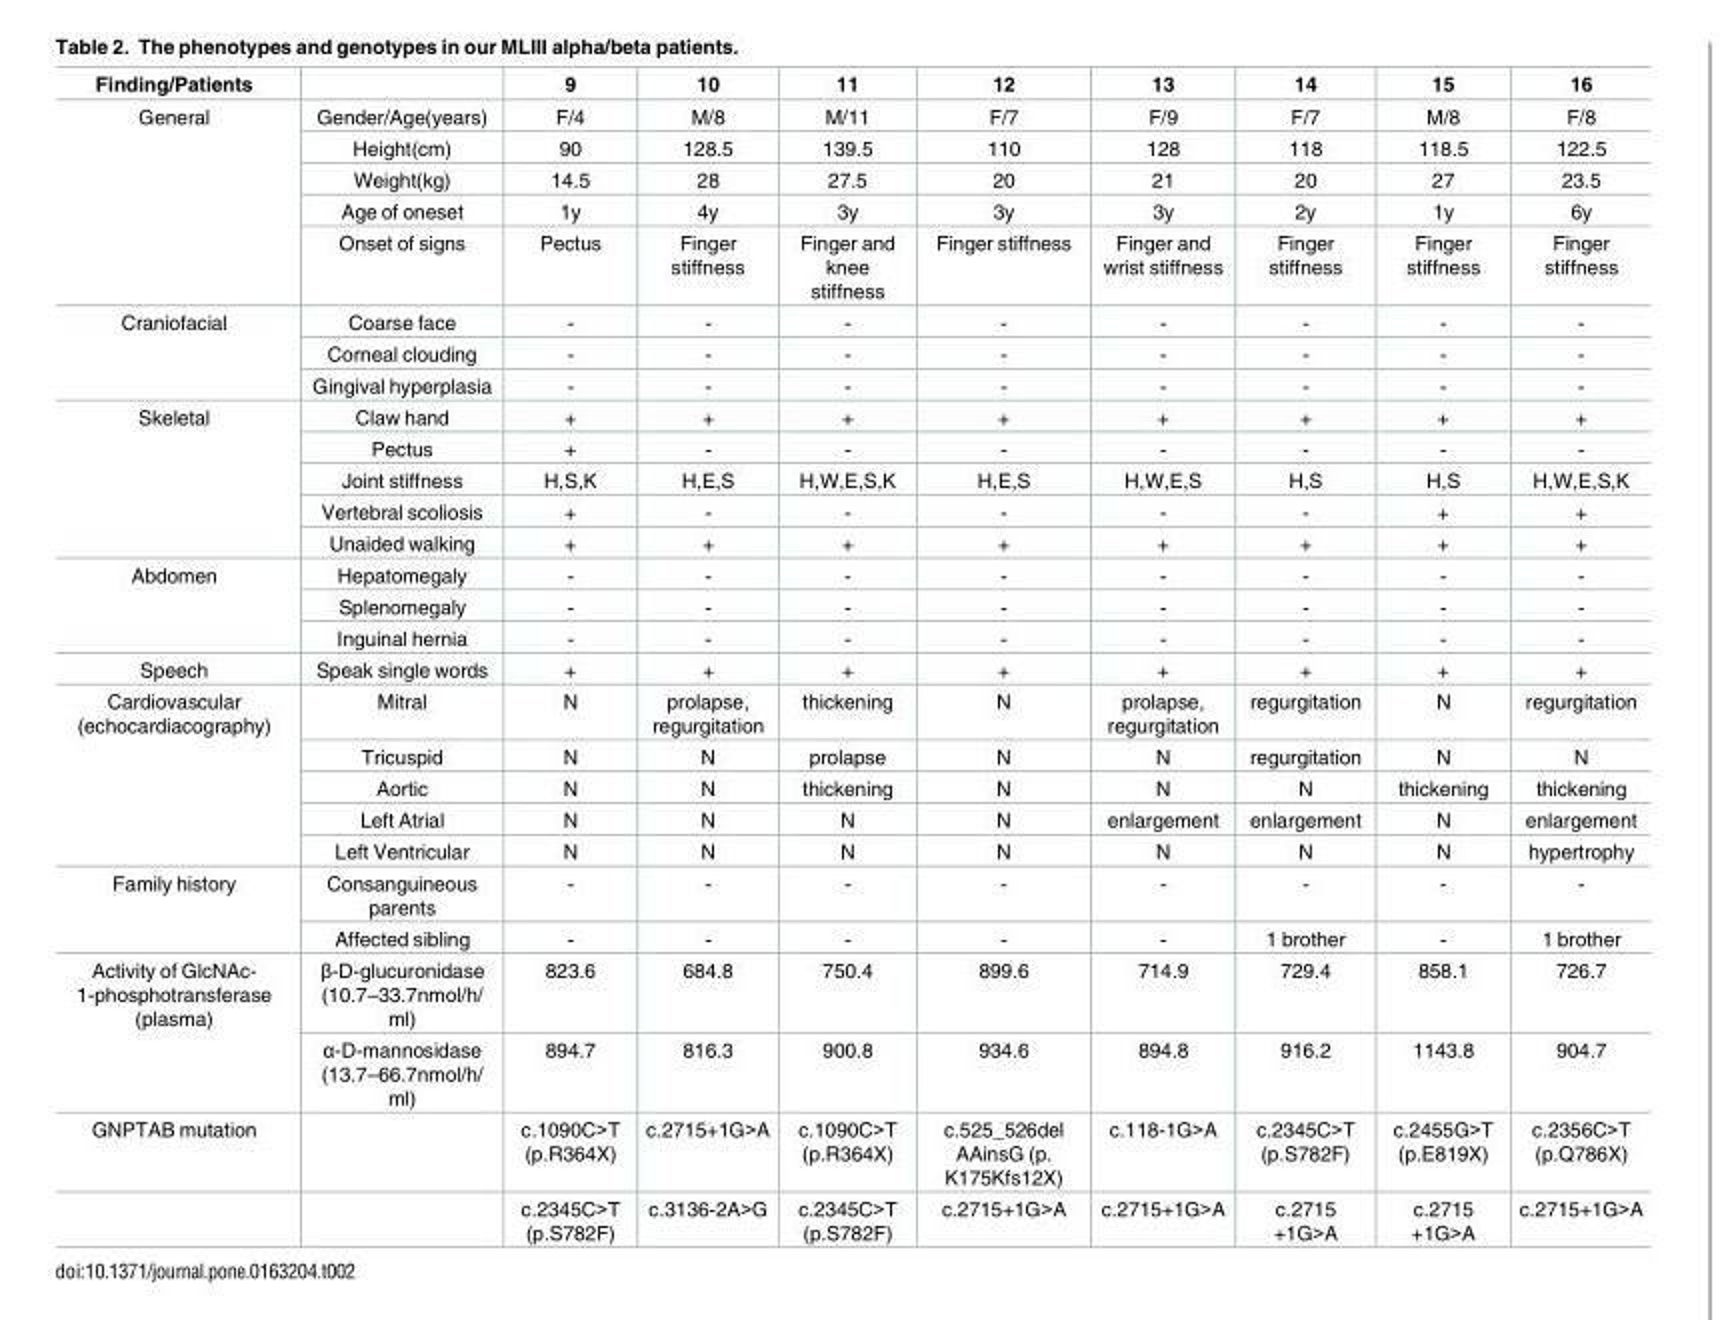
<table><thead><tr><td>Finding/Patients</td><td></td><td>9</td><td>10</td><td>11</td><td>12</td><td>13</td><td>14</td><td>15</td><td>16</td></tr></thead><tbody><tr><td rowspan="5">General</td><td>Gender/Age(years)</td><td>F/4</td><td>M/8</td><td>M/11</td><td>F/7</td><td>F/9</td><td>F/7</td><td>M/8</td><td>F/8</td></tr><tr><td>Height(cm)</td><td>90</td><td>128.5</td><td>139.5</td><td>110</td><td>128</td><td>118</td><td>118.5</td><td>122.5</td></tr><tr><td>Weight(kg)</td><td>14.5</td><td>28</td><td>27.5</td><td>20</td><td>21</td><td>20</td><td>27</td><td>23.5</td></tr><tr><td>Age of oneset</td><td>1y</td><td>4y</td><td>3y</td><td>3y</td><td>3y</td><td>2y</td><td>1y</td><td>6y</td></tr><tr><td>Onset of signs</td><td>Pectus</td><td>Finger stiffness</td><td>Finger and knee stiffness</td><td>Finger stiffness</td><td>Finger and wrist stiffness</td><td>Finger stiffness</td><td>Finger stiffness</td><td>Finger stiffness</td></tr><tr><td rowspan="3">Craniofacial</td><td>Coarse face</td><td>-</td><td>-</td><td>-</td><td>-</td><td>-</td><td>-</td><td>-</td><td>-</td></tr><tr><td>Corneal clouding</td><td>-</td><td>-</td><td>-</td><td>-</td><td>-</td><td>-</td><td>-</td><td>-</td></tr><tr><td>Gingival hyperplasia</td><td>-</td><td>-</td><td>-</td><td>-</td><td>-</td><td>-</td><td>-</td><td>-</td></tr><tr><td rowspan="5">Skeletal</td><td>Claw hand</td><td>+</td><td>+</td><td>+</td><td>+</td><td>+</td><td>+</td><td>+</td><td>+</td></tr><tr><td>Pectus</td><td>+</td><td>-</td><td>-</td><td>-</td><td>-</td><td>-</td><td>-</td><td>-</td></tr><tr><td>Joint stiffness</td><td>H,S,K</td><td>H,E,S</td><td>H,W,E,S,K</td><td>H,E,S</td><td>H,W,E,S</td><td>H,S</td><td>H,S</td><td>H,W,E,S,K</td></tr><tr><td>Vertebral scoliosis</td><td>+</td><td>-</td><td>-</td><td>-</td><td>-</td><td>-</td><td>+</td><td>+</td></tr><tr><td>Unaided walking</td><td>+</td><td>+</td><td>+</td><td>+</td><td>+</td><td>+</td><td>+</td><td>+</td></tr><tr><td rowspan="3">Abdomen</td><td>Hepatomegaly</td><td>-</td><td>-</td><td>-</td><td>-</td><td>-</td><td>-</td><td>-</td><td>-</td></tr><tr><td>Splenomegaly</td><td>-</td><td>-</td><td>-</td><td>-</td><td>-</td><td>-</td><td>-</td><td>-</td></tr><tr><td>Inguinal hernia</td><td>-</td><td>-</td><td>-</td><td>-</td><td>-</td><td>-</td><td>-</td><td>-</td></tr><tr><td>Speech</td><td>Speak single words</td><td>+</td><td>+</td><td>+</td><td>+</td><td>+</td><td>+</td><td>+</td><td>+</td></tr><tr><td rowspan="5">Cardiovascular (echocardiacography)</td><td>Mitral</td><td>N</td><td>prolapse, regurgitation</td><td>thickening</td><td>N</td><td>prolapse, regurgitation</td><td>regurgitation</td><td>N</td><td>regurgitation</td></tr><tr><td>Tricuspid</td><td>N</td><td>N</td><td>prolapse</td><td>N</td><td>N</td><td>regurgitation</td><td>N</td><td>N</td></tr><tr><td>Aortic</td><td>N</td><td>N</td><td>thickening</td><td>N</td><td>N</td><td>N</td><td>thickening</td><td>thickening</td></tr><tr><td>Left Atrial</td><td>N</td><td>N</td><td>N</td><td>N</td><td>enlargement</td><td>enlargement</td><td>N</td><td>enlargement</td></tr><tr><td>Left Ventricular</td><td>N</td><td>N</td><td>N</td><td>N</td><td>N</td><td>N</td><td>N</td><td>hypertrophy</td></tr><tr><td rowspan="2">Family history</td><td>Consanguineous parents</td><td>-</td><td>-</td><td>-</td><td>-</td><td>-</td><td>-</td><td>-</td><td>-</td></tr><tr><td>Affected sibling</td><td>-</td><td>-</td><td>-</td><td>-</td><td>-</td><td>1 brother</td><td>-</td><td>1 brother</td></tr><tr><td rowspan="2">Activity of GlcNAc- 1-phosphotransferase (plasma)</td><td>β-D-glucuronidase (10.7–33.7nmol/h/ ml)</td><td>823.6</td><td>684.8</td><td>750.4</td><td>899.6</td><td>714.9</td><td>729.4</td><td>858.1</td><td>726.7</td></tr><tr><td>α-D-mannosidase (13.7–66.7nmol/h/ ml)</td><td>894.7</td><td>816.3</td><td>900.8</td><td>934.6</td><td>894.8</td><td>916.2</td><td>1143.8</td><td>904.7</td></tr><tr><td rowspan="2">GNPTAB mutation</td><td></td><td>c.1090C&gt;T (p.R364X)</td><td>c.2715+1G&gt;A</td><td>c.1090C&gt;T (p.R364X)</td><td>c.525_526del AAinsG (p. K175Kfs12X)</td><td>c.118-1G&gt;A</td><td>c.2345C&gt;T (p.S782F)</td><td>c.2455G&gt;T (p.E819X)</td><td>c.2356C&gt;T (p.Q786X)</td></tr><tr><td></td><td>c.2345C&gt;T (p.S782F)</td><td>c.3136-2A&gt;G</td><td>c.2345C&gt;T (p.S782F)</td><td>c.2715+1G&gt;A</td><td>c.2715+1G&gt;A</td><td>c.2715 +1G&gt;A</td><td>c.2715 +1G&gt;A</td><td>c.2715+1G&gt;A</td></tr></tbody></table>